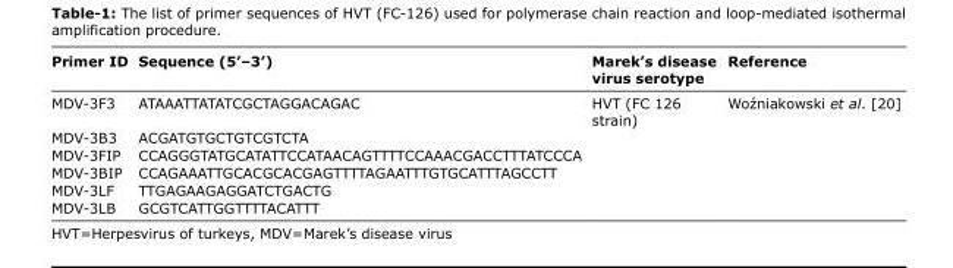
<table><thead><tr><td>Primer ID</td><td>Sequence (5’–3’)</td><td>Marek’s disease virus serotype</td><td>Reference</td></tr></thead><tbody><tr><td>MDV-3F3</td><td>ATAAATTATATCGCTAGGACAGAC</td><td>HVT (FC 126 strain)</td><td>Woźniakowski et al. [20]</td></tr><tr><td>MDV-3B3</td><td>ACGATGTGCTGTCGTCTA</td><td></td><td></td></tr><tr><td>MDV-3FIP</td><td>CCAGGGTATGCATATTCCATAACAGTTTTCCAAACGACCTTTATCCCA</td><td></td><td></td></tr><tr><td>MDV-3BIP</td><td>CCAGAAATTGCACGCACGAGTTTTAGAATTTGTGCATTTAGCCTT</td><td></td><td></td></tr><tr><td>MDV-3LF</td><td>TTGAGAAGAGGATCTGACTG</td><td></td><td></td></tr><tr><td>MDV-3LB</td><td>GCGTCATTGGTTTTACATTT</td><td></td><td></td></tr></tbody></table>